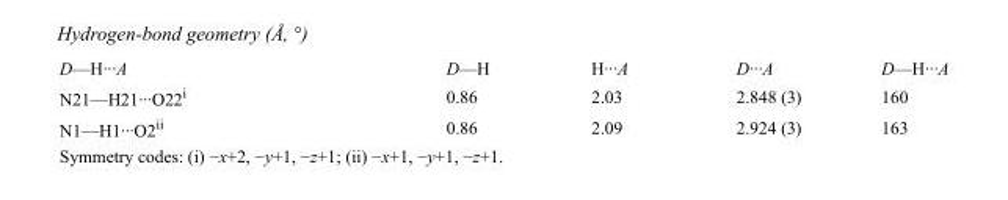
<table><tbody><tr><td>D—H···A</td><td>D—H</td><td>H···A</td><td>D···A</td><td>D—H···A</td></tr><tr><td>N21—H21···O22<sup>i</sup></td><td>0.86</td><td>2.03</td><td>2.848 (3)</td><td>160</td></tr><tr><td>N1—H1···O2<sup>ii</sup></td><td>0.86</td><td>2.09</td><td>2.924 (3)</td><td>163</td></tr></tbody></table>